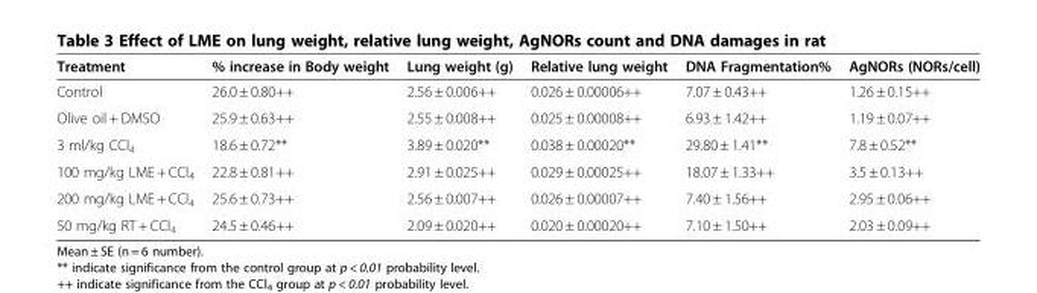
<table><thead><tr><td>Treatment</td><td>% increase in Body weight</td><td>Lung weight (g)</td><td>Relative lung weight</td><td>DNA Fragmentation%</td><td>AgNORs (NORs/cell)</td></tr></thead><tbody><tr><td>Control</td><td>26.0 ± 0.80++</td><td>2.56 ± 0.006++</td><td>0.026 ± 0.00006++</td><td>7.07 ± 0.43++</td><td>1.26 ± 0.15++</td></tr><tr><td>Olive oil + DMSO</td><td>25.9 ± 0.63++</td><td>2.55 ± 0.008++</td><td>0.025 ± 0.00008++</td><td>6.93 ± 1.42++</td><td>1.19 ± 0.07++</td></tr><tr><td>3 ml/kg CCl<sub>4</sub></td><td>18.6 ± 0.72**</td><td>3.89 ± 0.020**</td><td>0.038 ± 0.00020**</td><td>29.80 ± 1.41**</td><td>7.8 ± 0.52**</td></tr><tr><td>100 mg/kg LME + CCl<sub>4</sub></td><td>22.8 ± 0.81++</td><td>2.91 ± 0.025++</td><td>0.029 ± 0.00025++</td><td>18.07 ± 1.33++</td><td>3.5 ± 0.13++</td></tr><tr><td>200 mg/kg LME + CCl<sub>4</sub></td><td>25.6 ± 0.73++</td><td>2.56 ± 0.007++</td><td>0.026 ± 0.00007++</td><td>7.40 ± 1.56++</td><td>2.95 ± 0.06++</td></tr><tr><td>50 mg/kg RT + CCl<sub>4</sub></td><td>24.5 ± 0.46++</td><td>2.09 ± 0.020++</td><td>0.020 ± 0.00020++</td><td>7.10 ± 1.50++</td><td>2.03 ± 0.09++</td></tr></tbody></table>